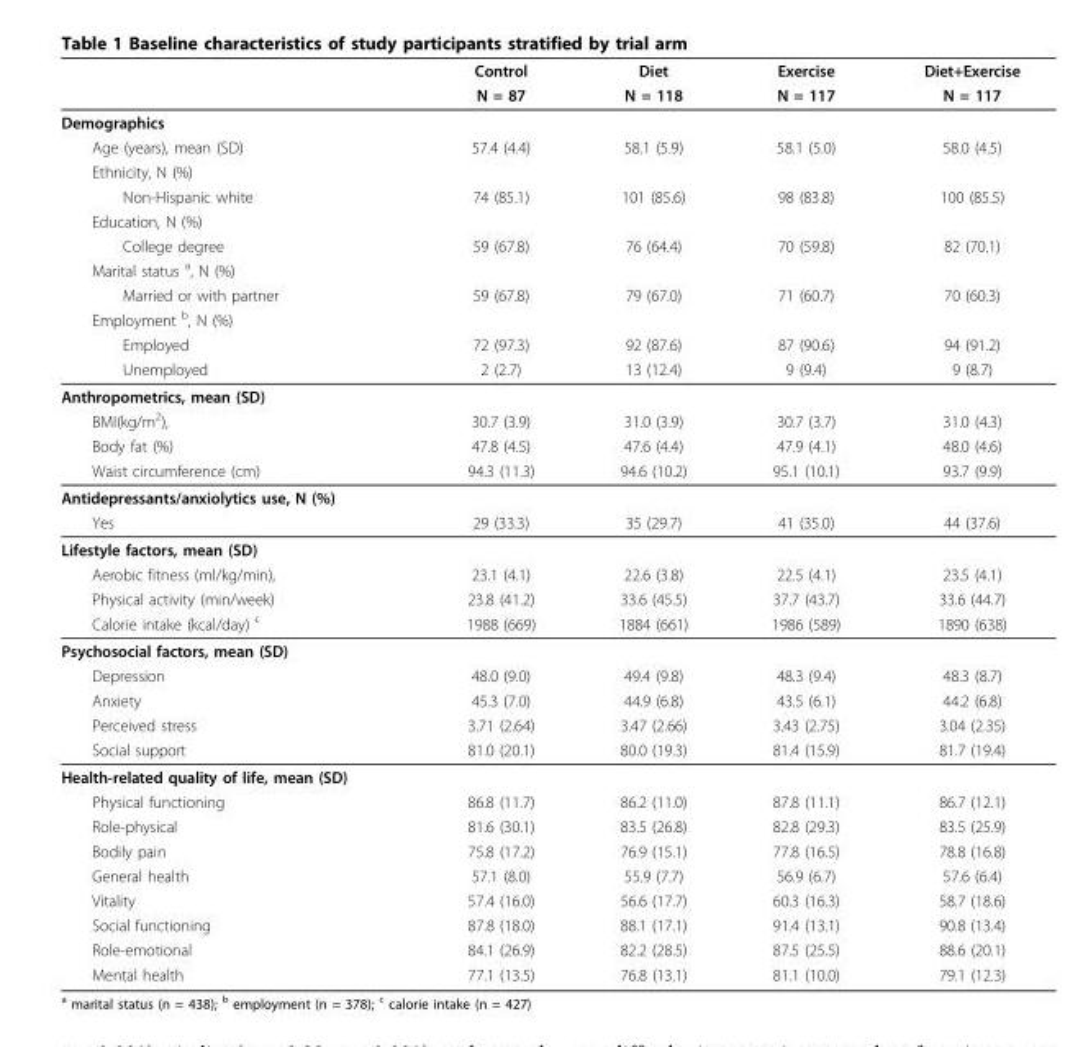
<table><thead><tr><td rowspan="2"></td><td rowspan="2">Control N = 87</td><td rowspan="2">Diet N = 118</td><td rowspan="2">Exercise N = 117</td><td rowspan="2">Diet+Exercise N = 117</td></tr><tr></tr></thead><tbody><tr><td colspan="5">Demographics</td></tr><tr><td>Age (years), mean (SD)</td><td>57.4 (4.4)</td><td>58.1 (5.9)</td><td>58.1 (5.0)</td><td>58.0 (4.5)</td></tr><tr><td colspan="5">Ethnicity, N (%)</td></tr><tr><td>Non-Hispanic white</td><td>74 (85.1)</td><td>101 (85.6)</td><td>98 (83.8)</td><td>100 (85.5)</td></tr><tr><td colspan="5">Education, N (%)</td></tr><tr><td>College degree</td><td>59 (67.8)</td><td>76 (64.4)</td><td>70 (59.8)</td><td>82 (70.1)</td></tr><tr><td colspan="5">Marital status <sup>a</sup>, N (%)</td></tr><tr><td>Married or with partner</td><td>59 (67.8)</td><td>79 (67.0)</td><td>71 (60.7)</td><td>70 (60.3)</td></tr><tr><td colspan="5">Employment <sup>b</sup>, N (%)</td></tr><tr><td>Employed</td><td>72 (97.3)</td><td>92 (87.6)</td><td>87 (90.6)</td><td>94 (91.2)</td></tr><tr><td>Unemployed</td><td>2 (2.7)</td><td>13 (12.4)</td><td>9 (9.4)</td><td>9 (8.7)</td></tr><tr><td colspan="5">Anthropometrics, mean (SD)</td></tr><tr><td>BMI(kg/m<sup>2</sup>),</td><td>30.7 (3.9)</td><td>31.0 (3.9)</td><td>30.7 (3.7)</td><td>31.0 (4.3)</td></tr><tr><td>Body fat (%)</td><td>47.8 (4.5)</td><td>47.6 (4.4)</td><td>47.9 (4.1)</td><td>48.0 (4.6)</td></tr><tr><td>Waist circumference (cm)</td><td>94.3 (11.3)</td><td>94.6 (10.2)</td><td>95.1 (10.1)</td><td>93.7 (9.9)</td></tr><tr><td colspan="5">Antidepressants/anxiolytics use, N (%)</td></tr><tr><td>Yes</td><td>29 (33.3)</td><td>35 (29.7)</td><td>41 (35.0)</td><td>44 (37.6)</td></tr><tr><td colspan="5">Lifestyle factors, mean (SD)</td></tr><tr><td>Aerobic fitness (ml/kg/min),</td><td>23.1 (4.1)</td><td>22.6 (3.8)</td><td>22.5 (4.1)</td><td>23.5 (4.1)</td></tr><tr><td>Physical activity (min/week)</td><td>23.8 (41.2)</td><td>33.6 (45.5)</td><td>37.7 (43.7)</td><td>33.6 (44.7)</td></tr><tr><td>Calorie intake (kcal/day) <sup>c</sup></td><td>1988 (669)</td><td>1884 (661)</td><td>1986 (589)</td><td>1890 (638)</td></tr><tr><td colspan="5">Psychosocial factors, mean (SD)</td></tr><tr><td>Depression</td><td>48.0 (9.0)</td><td>49.4 (9.8)</td><td>48.3 (9.4)</td><td>48.3 (8.7)</td></tr><tr><td>Anxiety</td><td>45.3 (7.0)</td><td>44.9 (6.8)</td><td>43.5 (6.1)</td><td>44.2 (6.8)</td></tr><tr><td>Perceived stress</td><td>3.71 (2.64)</td><td>3.47 (2.66)</td><td>3.43 (2.75)</td><td>3.04 (2.35)</td></tr><tr><td>Social support</td><td>81.0 (20.1)</td><td>80.0 (19.3)</td><td>81.4 (15.9)</td><td>81.7 (19.4)</td></tr><tr><td colspan="5">Health-related quality of life, mean (SD)</td></tr><tr><td>Physical functioning</td><td>86.8 (11.7)</td><td>86.2 (11.0)</td><td>87.8 (11.1)</td><td>86.7 (12.1)</td></tr><tr><td>Role-physical</td><td>81.6 (30.1)</td><td>83.5 (26.8)</td><td>82.8 (29.3)</td><td>83.5 (25.9)</td></tr><tr><td>Bodily pain</td><td>75.8 (17.2)</td><td>76.9 (15.1)</td><td>77.8 (16.5)</td><td>78.8 (16.8)</td></tr><tr><td>General health</td><td>57.1 (8.0)</td><td>55.9 (7.7)</td><td>56.9 (6.7)</td><td>57.6 (6.4)</td></tr><tr><td>Vitality</td><td>57.4 (16.0)</td><td>56.6 (17.7)</td><td>60.3 (16.3)</td><td>58.7 (18.6)</td></tr><tr><td>Social functioning</td><td>87.8 (18.0)</td><td>88.1 (17.1)</td><td>91.4 (13.1)</td><td>90.8 (13.4)</td></tr><tr><td>Role-emotional</td><td>84.1 (26.9)</td><td>82.2 (28.5)</td><td>87.5 (25.5)</td><td>88.6 (20.1)</td></tr><tr><td>Mental health</td><td>77.1 (13.5)</td><td>76.8 (13.1)</td><td>81.1 (10.0)</td><td>79.1 (12.3)</td></tr></tbody></table>